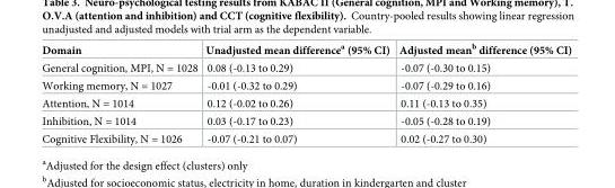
<table><thead><tr><td>Domain</td><td>Unadjusted mean difference<sup>a</sup> (95% CI)</td><td>Adjusted mean<sup>b</sup> difference (95% CI)</td></tr></thead><tbody><tr><td>General cognition, MPI, N = 1028</td><td>0.08 (-0.13 to 0.29)</td><td>-0.07 (-0.30 to 0.15)</td></tr><tr><td>Working memory, N = 1027</td><td>-0.01 (-0.32 to 0.29)</td><td>-0.07 (-0.29 to 0.16)</td></tr><tr><td>Attention, N = 1014</td><td>0.12 (-0.02 to 0.26)</td><td>0.11 (-0.13 to 0.35)</td></tr><tr><td>Inhibition, N = 1014</td><td>0.03 (-0.17 to 0.23)</td><td>-0.05 (-0.28 to 0.19)</td></tr><tr><td>Cognitive Flexibility, N = 1026</td><td>-0.07 (-0.21 to 0.07)</td><td>0.02 (-0.27 to 0.30)</td></tr></tbody></table>